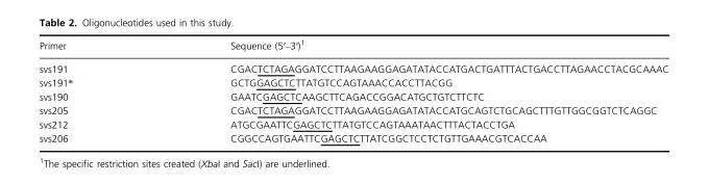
<table><thead><tr><td>Primer</td><td>Sequence (5′–3′)<sup>1</sup></td></tr></thead><tbody><tr><td>svs191</td><td>CGACTCTAGAGGATCCTTAAGAAGGAGATATACCATGACTGATTTACTGACCTTAGAACCTACGCAAAC</td></tr><tr><td>svs191*</td><td>GCTGGAGCTCTTATGTCCAGTAAACCACCTTACGG</td></tr><tr><td>svs190</td><td>GAATCGAGCTCAAGCTTCAGACCGGACATGCTGTCTTCTC</td></tr><tr><td>svs205</td><td>CGACTCTAGAGGATCCTTAAGAAGGAGATATACCATGCAGTCTGCAGCTTTGTTGGCGGTCTCAGGC</td></tr><tr><td>svs212</td><td>ATGCGAATTCGAGCTCTTATGTCCAGTAAATAACTTTACTACCTGA</td></tr><tr><td>svs206</td><td>CGGCCAGTGAATTCGAGCTCTTATCGGCTCCTCTGTTGAAACGTCACCAA</td></tr></tbody></table>